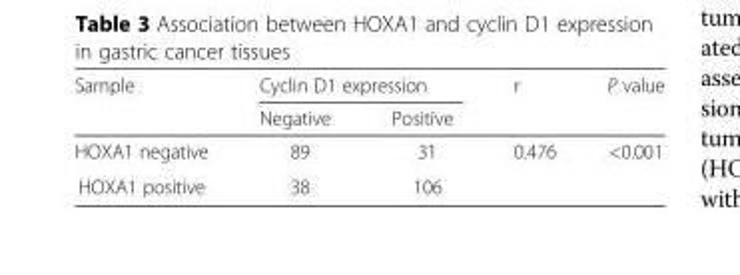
<table><thead><tr><td rowspan="2">Sample</td><td colspan="2">Cyclin D1 expression</td><td rowspan="2">r</td><td rowspan="2">P value</td></tr><tr><td>Negative</td><td>Positive</td></tr></thead><tbody><tr><td>HOXA1 negative</td><td>89</td><td>31</td><td rowspan="2">0.476</td><td rowspan="2">&lt;0.001</td></tr><tr><td>HOXA1 positive</td><td>38</td><td>106</td></tr></tbody></table>